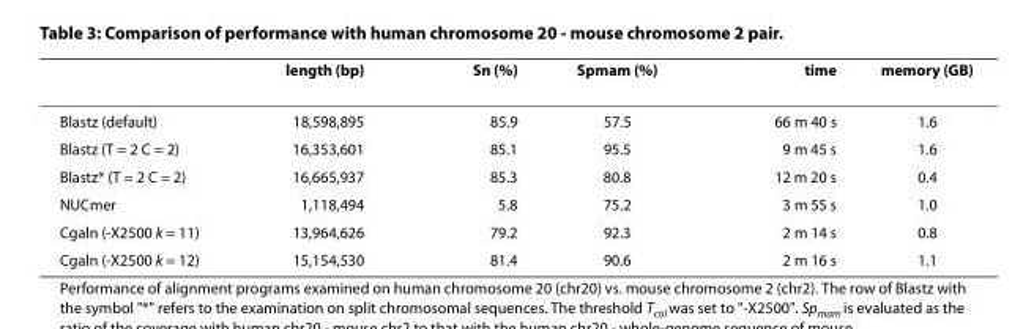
<table><thead><tr><td></td><td>length (bp)</td><td>Sn (%)</td><td>Sp<sub>mam</sub> (%)</td><td>time</td><td>memory (GB)</td></tr></thead><tbody><tr><td>Blastz (default)</td><td>18,598,895</td><td>85.9</td><td>57.5</td><td>66 m 40 s</td><td>1.6</td></tr><tr><td>Blastz (T = 2 C = 2)</td><td>16,353,601</td><td>85.1</td><td>95.5</td><td>9 m 45 s</td><td>1.6</td></tr><tr><td>Blastz* (T = 2 C = 2)</td><td>16,665,937</td><td>85.3</td><td>80.8</td><td>12 m 20 s</td><td>0.4</td></tr><tr><td>NUCmer</td><td>1,118,494</td><td>5.8</td><td>75.2</td><td>3 m 55 s</td><td>1.0</td></tr><tr><td>Cgaln (-X2500 k = 11)</td><td>13,964,626</td><td>79.2</td><td>92.3</td><td>2 m 14 s</td><td>0.8</td></tr><tr><td>Cgaln (-X2500 k = 12)</td><td>15,154,530</td><td>81.4</td><td>90.6</td><td>2 m 16 s</td><td>1.1</td></tr></tbody></table>